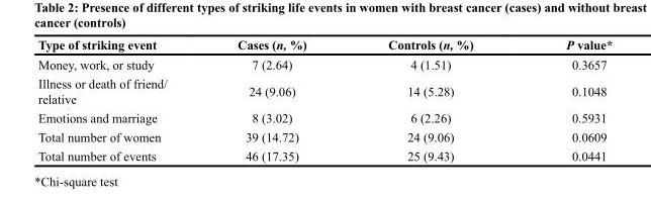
<table><thead><tr><td>Type of striking event</td><td>Cases (n, %)</td><td>Controls (n, %)</td><td>P value*</td></tr></thead><tbody><tr><td>Money, work, or study</td><td>7 (2.64)</td><td>4 (1.51)</td><td>0.3657</td></tr><tr><td>Illness or death of friend/ relative</td><td>24 (9.06)</td><td>14 (5.28)</td><td>0.1048</td></tr><tr><td>Emotions and marriage</td><td>8 (3.02)</td><td>6 (2.26)</td><td>0.5931</td></tr><tr><td>Total number of women</td><td>39 (14.72)</td><td>24 (9.06)</td><td>0.0609</td></tr><tr><td>Total number of events</td><td>46 (17.35)</td><td>25 (9.43)</td><td>0.0441</td></tr></tbody></table>